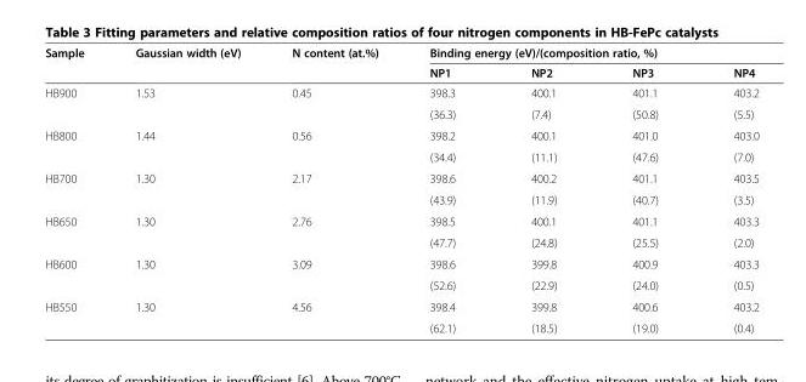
<table><thead><tr><td rowspan="2">Sample</td><td rowspan="2">Gaussian width (eV)</td><td rowspan="2">N content (at.%)</td><td colspan="4">Binding energy (eV)/(composition ratio, %)</td></tr><tr><td>NP1</td><td>NP2</td><td>NP3</td><td>NP4</td></tr></thead><tbody><tr><td rowspan="2">HB900</td><td rowspan="2">1.53</td><td rowspan="2">0.45</td><td>398.3</td><td>400.1</td><td>401.1</td><td>403.2</td></tr><tr><td>(36.3)</td><td>(7.4)</td><td>(50.8)</td><td>(5.5)</td></tr><tr><td rowspan="2">HB800</td><td rowspan="2">1.44</td><td rowspan="2">0.56</td><td>398.2</td><td>400.1</td><td>401.0</td><td>403.0</td></tr><tr><td>(34.4)</td><td>(11.1)</td><td>(47.6)</td><td>(7.0)</td></tr><tr><td rowspan="2">HB700</td><td rowspan="2">1.30</td><td rowspan="2">2.17</td><td>398.6</td><td>400.2</td><td>401.1</td><td>403.5</td></tr><tr><td>(43.9)</td><td>(11.9)</td><td>(40.7)</td><td>(3.5)</td></tr><tr><td rowspan="2">HB650</td><td rowspan="2">1.30</td><td rowspan="2">2.76</td><td>398.5</td><td>400.1</td><td>401.1</td><td>403.3</td></tr><tr><td>(47.7)</td><td>(24.8)</td><td>(25.5)</td><td>(2.0)</td></tr><tr><td rowspan="2">HB600</td><td rowspan="2">1.30</td><td rowspan="2">3.09</td><td>398.6</td><td>399.8</td><td>400.9</td><td>403.3</td></tr><tr><td>(52.6)</td><td>(22.9)</td><td>(24.0)</td><td>(0.5)</td></tr><tr><td rowspan="2">HB550</td><td rowspan="2">1.30</td><td rowspan="2">4.56</td><td>398.4</td><td>399.8</td><td>400.6</td><td>403.2</td></tr><tr><td>(62.1)</td><td>(18.5)</td><td>(19.0)</td><td>(0.4)</td></tr></tbody></table>